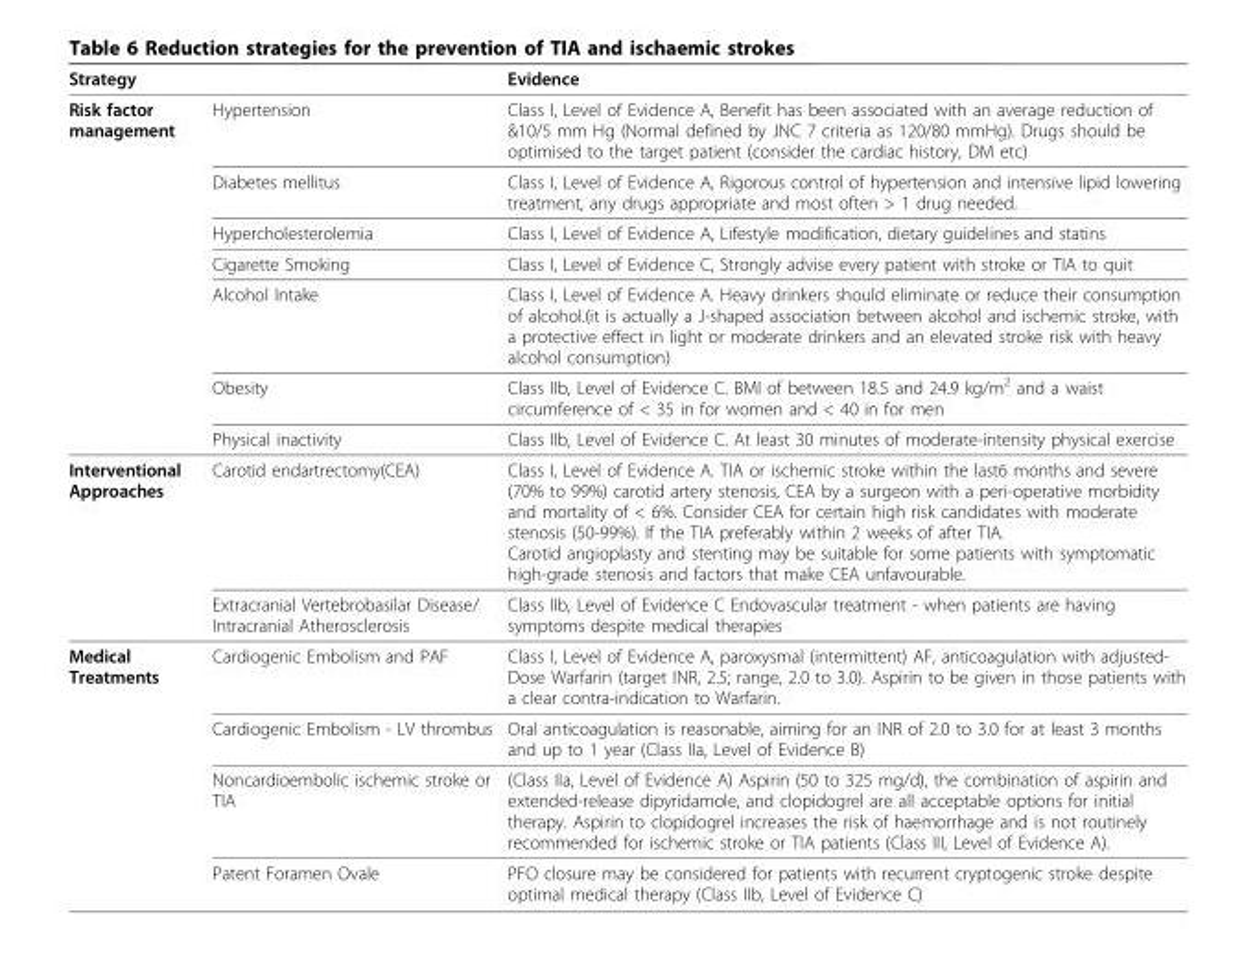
<table><thead><tr><td colspan="2">Strategy</td><td rowspan="2">Evidence Class I, Level of Evidence A, Benefit has been associated with an average reduction of &amp;10/5 mm Hg (Normal defined by JNC 7 criteria as 120/80 mmHg). Drugs should be optimised to the target patient (consider the cardiac history, DM etc)</td></tr><tr><td>Risk factor management</td><td>Hypertension</td></tr></thead><tbody><tr><td></td><td>Diabetes mellitus</td><td>Class I, Level of Evidence A, Rigorous control of hypertension and intensive lipid lowering treatment, any drugs appropriate and most often &gt; 1 drug needed.</td></tr><tr><td></td><td>Hypercholesterolemia</td><td>Class I, Level of Evidence A, Lifestyle modification, dietary guidelines and statins</td></tr><tr><td></td><td>Cigarette Smoking</td><td>Class I, Level of Evidence C, Strongly advise every patient with stroke or TIA to quit</td></tr><tr><td></td><td>Alcohol Intake</td><td>Class I, Level of Evidence A. Heavy drinkers should eliminate or reduce their consumption of alcohol.(it is actually a J-shaped association between alcohol and ischemic stroke, with a protective effect in light or moderate drinkers and an elevated stroke risk with heavy alcohol consumption)</td></tr><tr><td></td><td>Obesity</td><td>Class IIb, Level of Evidence C. BMI of between 18.5 and 24.9 kg/m<sup>2</sup> and a waist circumference of &lt; 35 in for women and &lt; 40 in for men</td></tr><tr><td></td><td>Physical inactivity</td><td>Class IIb, Level of Evidence C. At least 30 minutes of moderate-intensity physical exercise</td></tr><tr><td rowspan="2">Interventional Approaches</td><td>Carotid endartrectomy(CEA)</td><td>Class I, Level of Evidence A. TIA or ischemic stroke within the last6 months and severe (70% to 99%) carotid artery stenosis, CEA by a surgeon with a peri-operative morbidity and mortality of &lt; 6%. Consider CEA for certain high risk candidates with moderate stenosis (50-99%). If the TIA preferably within 2 weeks of after TIA. Carotid angioplasty and stenting may be suitable for some patients with symptomatic high-grade stenosis and factors that make CEA unfavourable.</td></tr><tr><td>Extracranial Vertebrobasilar Disease/ Intracranial Atherosclerosis</td><td>Class IIb, Level of Evidence C Endovascular treatment - when patients are having symptoms despite medical therapies</td></tr><tr><td rowspan="4">Medical Treatments</td><td>Cardiogenic Embolism and PAF</td><td>Class I, Level of Evidence A, paroxysmal (intermittent) AF, anticoagulation with adjusted- Dose Warfarin (target INR, 2.5; range, 2.0 to 3.0). Aspirin to be given in those patients with a clear contra-indication to Warfarin.</td></tr><tr><td>Cardiogenic Embolism - LV thrombus</td><td>Oral anticoagulation is reasonable, aiming for an INR of 2.0 to 3.0 for at least 3 months and up to 1 year (Class IIa, Level of Evidence B)</td></tr><tr><td>Noncardioembolic ischemic stroke or TIA</td><td>(Class IIa, Level of Evidence A) Aspirin (50 to 325 mg/d), the combination of aspirin and extended-release dipyridamole, and clopidogrel are all acceptable options for initial therapy. Aspirin to clopidogrel increases the risk of haemorrhage and is not routinely recommended for ischemic stroke or TIA patients (Class III, Level of Evidence A).</td></tr><tr><td>Patent Foramen Ovale</td><td>PFO closure may be considered for patients with recurrent cryptogenic stroke despite optimal medical therapy (Class IIb, Level of Evidence C)</td></tr></tbody></table>